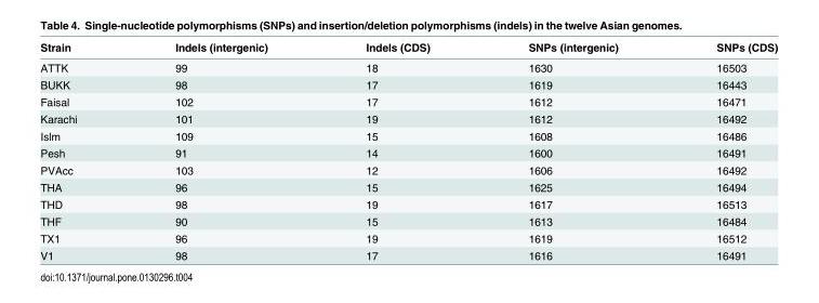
<table><thead><tr><td>Strain</td><td>Indels (intergenic)</td><td>Indels (CDS)</td><td>SNPs (intergenic)</td><td>SNPs (CDS)</td></tr></thead><tbody><tr><td>ATTK</td><td>99</td><td>18</td><td>1630</td><td>16503</td></tr><tr><td>BUKK</td><td>98</td><td>17</td><td>1619</td><td>16443</td></tr><tr><td>Faisal</td><td>102</td><td>17</td><td>1612</td><td>16471</td></tr><tr><td>Karachi</td><td>101</td><td>19</td><td>1612</td><td>16492</td></tr><tr><td>Islm</td><td>109</td><td>15</td><td>1608</td><td>16486</td></tr><tr><td>Pesh</td><td>91</td><td>14</td><td>1600</td><td>16491</td></tr><tr><td>PVAcc</td><td>103</td><td>12</td><td>1606</td><td>16492</td></tr><tr><td>THA</td><td>96</td><td>15</td><td>1625</td><td>16494</td></tr><tr><td>THD</td><td>98</td><td>19</td><td>1617</td><td>16513</td></tr><tr><td>THF</td><td>90</td><td>15</td><td>1613</td><td>16484</td></tr><tr><td>TX1</td><td>96</td><td>19</td><td>1619</td><td>16512</td></tr><tr><td>V1</td><td>98</td><td>17</td><td>1616</td><td>16491</td></tr></tbody></table>